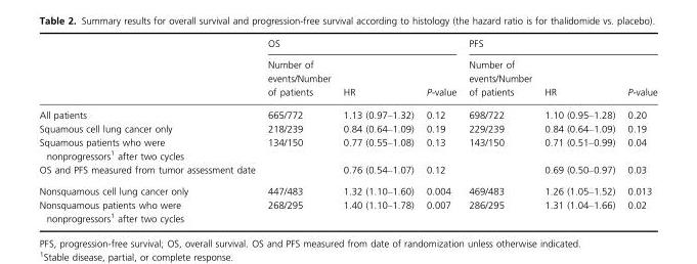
<table><thead><tr><td rowspan="2"></td><td colspan="3">OS</td><td colspan="3">PFS</td></tr><tr><td>Number of events/Number of patients</td><td>HR</td><td>P-value</td><td>Number of events/Number of patients</td><td>HR</td><td>P-value</td></tr></thead><tbody><tr><td>All patients</td><td>665/772</td><td>1.13 (0.97–1.32)</td><td>0.12</td><td>698/722</td><td>1.10 (0.95–1.28)</td><td>0.20</td></tr><tr><td>Squamous cell lung cancer only</td><td>218/239</td><td>0.84 (0.64–1.09)</td><td>0.19</td><td>229/239</td><td>0.84 (0.64–1.09)</td><td>0.19</td></tr><tr><td>Squamous patients who were nonprogressors<sup>1</sup> after two cycles</td><td>134/150</td><td>0.77 (0.55–1.08)</td><td>0.13</td><td>143/150</td><td>0.71 (0.51–0.99)</td><td>0.04</td></tr><tr><td>OS and PFS measured from tumor assessment date</td><td></td><td>0.76 (0.54–1.07)</td><td>0.12</td><td></td><td>0.69 (0.50–0.97)</td><td>0.03</td></tr><tr><td>Nonsquamous cell lung cancer only</td><td>447/483</td><td>1.32 (1.10–1.60)</td><td>0.004</td><td>469/483</td><td>1.26 (1.05–1.52)</td><td>0.013</td></tr><tr><td>Nonsquamous patients who were nonprogressors<sup>1</sup> after two cycles</td><td>268/295</td><td>1.40 (1.10–1.78)</td><td>0.007</td><td>286/295</td><td>1.31 (1.04–1.66)</td><td>0.02</td></tr></tbody></table>